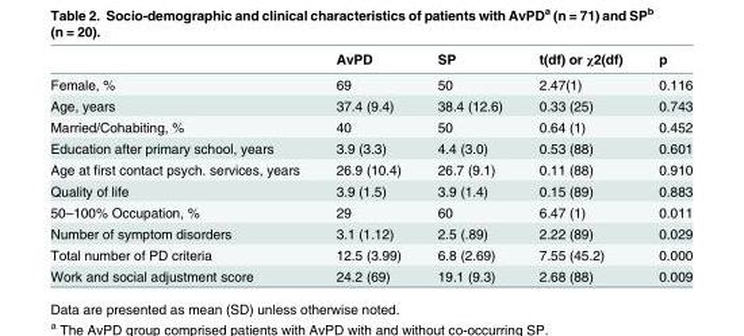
<table><thead><tr><td></td><td>AvPD</td><td>SP</td><td>t(df) or χ2(df)</td><td>p</td></tr></thead><tbody><tr><td>Female, %</td><td>69</td><td>50</td><td>2.47(1)</td><td>0.116</td></tr><tr><td>Age, years</td><td>37.4 (9.4)</td><td>38.4 (12.6)</td><td>0.33 (25)</td><td>0.743</td></tr><tr><td>Married/Cohabiting, %</td><td>40</td><td>50</td><td>0.64 (1)</td><td>0.452</td></tr><tr><td>Education after primary school, years</td><td>3.9 (3.3)</td><td>4.4 (3.0)</td><td>0.53 (88)</td><td>0.601</td></tr><tr><td>Age at first contact psych. services, years</td><td>26.9 (10.4)</td><td>26.7 (9.1)</td><td>0.11 (88)</td><td>0.910</td></tr><tr><td>Quality of life</td><td>3.9 (1.5)</td><td>3.9 (1.4)</td><td>0.15 (89)</td><td>0.883</td></tr><tr><td>50–100% Occupation, %</td><td>29</td><td>60</td><td>6.47 (1)</td><td>0.011</td></tr><tr><td>Number of symptom disorders</td><td>3.1 (1.12)</td><td>2.5 (.89)</td><td>2.22 (89)</td><td>0.029</td></tr><tr><td>Total number of PD criteria</td><td>12.5 (3.99)</td><td>6.8 (2.69)</td><td>7.55 (45.2)</td><td>0.000</td></tr><tr><td>Work and social adjustment score</td><td>24.2 (69)</td><td>19.1 (9.3)</td><td>2.68 (88)</td><td>0.009</td></tr></tbody></table>